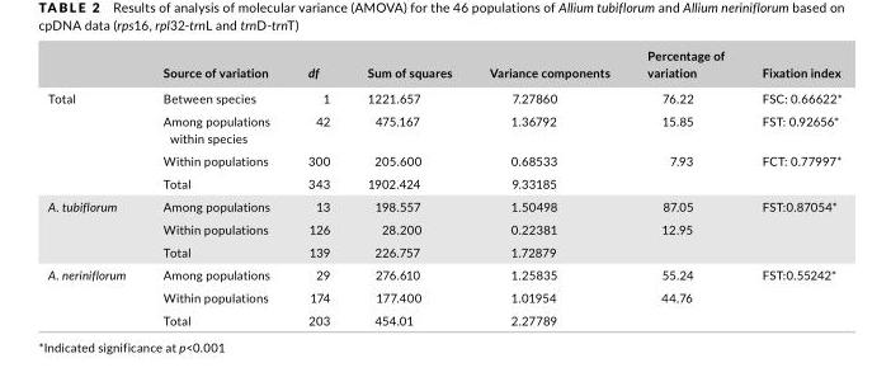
<table><thead><tr><td></td><td>Source of variation</td><td>df</td><td>Sum of squares</td><td>Variance components</td><td>Percentage of variation</td><td>Fixation index</td></tr></thead><tbody><tr><td rowspan="4">Total</td><td>Between species</td><td>1</td><td>1221.657</td><td>7.27860</td><td>76.22</td><td>FSC: 0.66622*</td></tr><tr><td>Among populations within species</td><td>42</td><td>475.167</td><td>1.36792</td><td>15.85</td><td>FST: 0.92656*</td></tr><tr><td>Within populations</td><td>300</td><td>205.600</td><td>0.68533</td><td>7.93</td><td>FCT: 0.77997*</td></tr><tr><td>Total</td><td>343</td><td>1902.424</td><td>9.33185</td><td></td><td></td></tr><tr><td rowspan="3">A. tubiflorum</td><td>Among populations</td><td>13</td><td>198.557</td><td>1.50498</td><td>87.05</td><td>FST:0.87054*</td></tr><tr><td>Within populations</td><td>126</td><td>28.200</td><td>0.22381</td><td>12.95</td><td></td></tr><tr><td>Total</td><td>139</td><td>226.757</td><td>1.72879</td><td></td><td></td></tr><tr><td rowspan="3">A. neriniflorum</td><td>Among populations</td><td>29</td><td>276.610</td><td>1.25835</td><td>55.24</td><td>FST:0.55242*</td></tr><tr><td>Within populations</td><td>174</td><td>177.400</td><td>1.01954</td><td>44.76</td><td></td></tr><tr><td>Total</td><td>203</td><td>454.01</td><td>2.27789</td><td></td><td></td></tr></tbody></table>